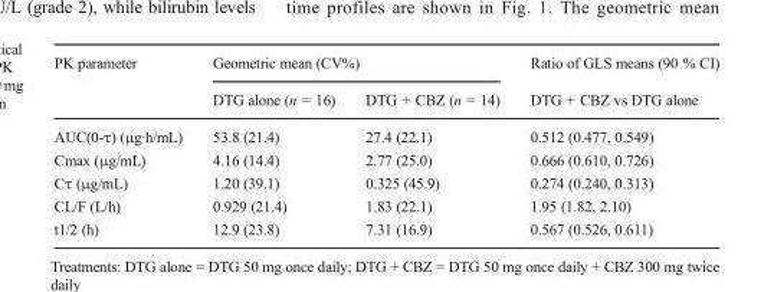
<table><thead><tr><td rowspan="2">PK parameter</td><td colspan="2">Geometric mean (CV%)</td><td rowspan="2">Ratio of GLS means (90 % CI) DTG + CBZ vs DTG alone</td></tr><tr><td>DTG alone (n = 16)</td><td>DTG + CBZ (n = 14)</td></tr></thead><tbody><tr><td>AUC(0-τ) (μg·h/mL)</td><td>53.8 (21.4)</td><td>27.4 (22.1)</td><td>0.512 (0.477, 0.549)</td></tr><tr><td>Cmax (μg/mL)</td><td>4.16 (14.4)</td><td>2.77 (25.0)</td><td>0.666 (0.610, 0.726)</td></tr><tr><td>Cτ (μg/mL)</td><td>1.20 (39.1)</td><td>0.325 (45.9)</td><td>0.274 (0.240, 0.313)</td></tr><tr><td>CL/F (L/h)</td><td>0.929 (21.4)</td><td>1.83 (22.1)</td><td>1.95 (1.82, 2.10)</td></tr><tr><td>t1/2 (h)</td><td>12.9 (23.8)</td><td>7.31 (16.9)</td><td>0.567 (0.526, 0.611)</td></tr></tbody></table>